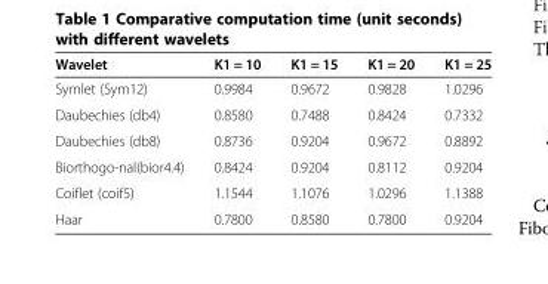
<table><thead><tr><td>Wavelet</td><td>K1 = 10</td><td>K1 = 15</td><td>K1 = 20</td><td>K1 = 25</td></tr></thead><tbody><tr><td>Symlet (Sym12)</td><td>0.9984</td><td>0.9672</td><td>0.9828</td><td>1.0296</td></tr><tr><td>Daubechies (db4)</td><td>0.8580</td><td>0.7488</td><td>0.8424</td><td>0.7332</td></tr><tr><td>Daubechies (db8)</td><td>0.8736</td><td>0.9204</td><td>0.9672</td><td>0.8892</td></tr><tr><td>Biorthogo-nal(bior4.4)</td><td>0.8424</td><td>0.9204</td><td>0.8112</td><td>0.9204</td></tr><tr><td>Coiflet (coif5)</td><td>1.1544</td><td>1.1076</td><td>1.0296</td><td>1.1388</td></tr><tr><td>Haar</td><td>0.7800</td><td>0.8580</td><td>0.7800</td><td>0.9204</td></tr></tbody></table>